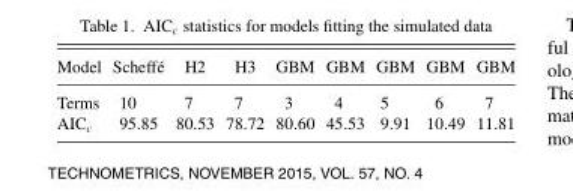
<table><thead><tr><td>Model</td><td>Scheff´e</td><td>H2</td><td>H3</td><td>GBM</td><td>GBM</td><td>GBM</td><td>GBM</td><td>GBM</td></tr></thead><tbody><tr><td>Terms</td><td>10</td><td>7</td><td>7</td><td>3</td><td>4</td><td>5</td><td>6</td><td>7</td></tr><tr><td>AIC<sub>c</sub></td><td>95.85</td><td>80.53</td><td>78.72</td><td>80.60</td><td>45.53</td><td>9.91</td><td>10.49</td><td>11.81</td></tr></tbody></table>